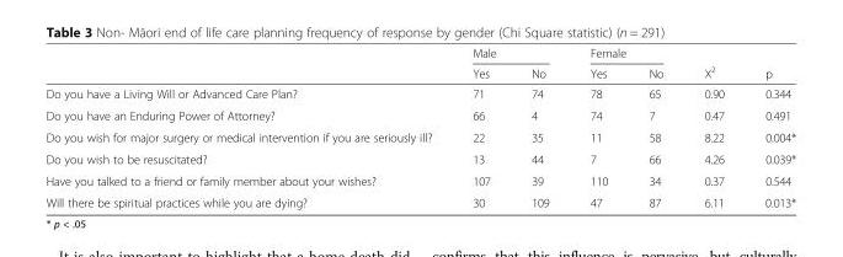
<table><thead><tr><td rowspan="2"></td><td colspan="2">Male</td><td colspan="2">Female</td><td rowspan="2">X<sup>2</sup></td><td rowspan="2">p</td></tr><tr><td>Yes</td><td>No</td><td>Yes</td><td>No</td></tr></thead><tbody><tr><td>Do you have a Living Will or Advanced Care Plan?</td><td>71</td><td>74</td><td>78</td><td>65</td><td>0.90</td><td>0.344</td></tr><tr><td>Do you have an Enduring Power of Attorney?</td><td>66</td><td>4</td><td>74</td><td>7</td><td>0.47</td><td>0.491</td></tr><tr><td>Do you wish for major surgery or medical intervention if you are seriously ill?</td><td>22</td><td>35</td><td>11</td><td>58</td><td>8.22</td><td>0.004*</td></tr><tr><td>Do you wish to be resuscitated?</td><td>13</td><td>44</td><td>7</td><td>66</td><td>4.26</td><td>0.039*</td></tr><tr><td>Have you talked to a friend or family member about your wishes?</td><td>107</td><td>39</td><td>110</td><td>34</td><td>0.37</td><td>0.544</td></tr><tr><td>Will there be spiritual practices while you are dying?</td><td>30</td><td>109</td><td>47</td><td>87</td><td>6.11</td><td>0.013*</td></tr></tbody></table>